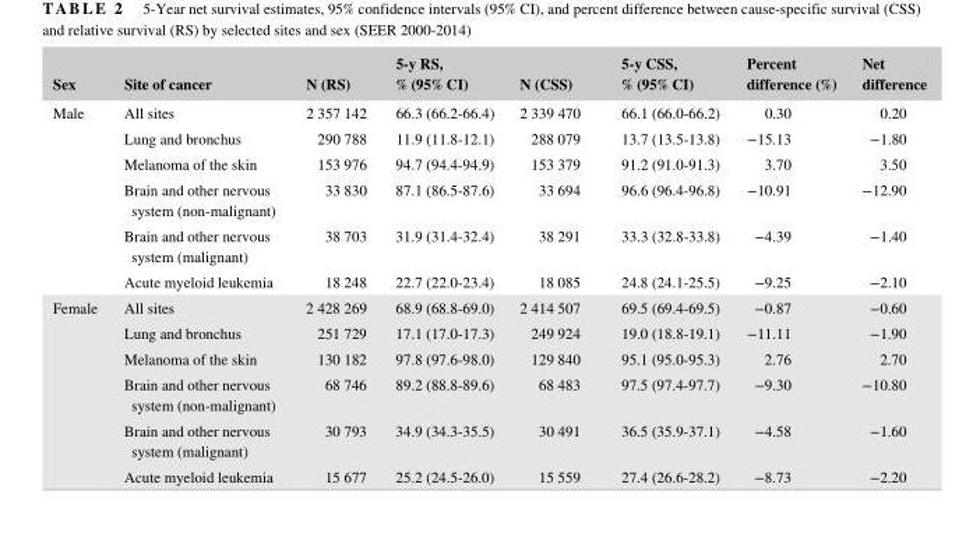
<table><thead><tr><td>Sex</td><td>Site of cancer</td><td>N (RS)</td><td>5- y RS, % (95% CI)</td><td>N (CSS)</td><td>5- y CSS, % (95% CI)</td><td>Percent difference (%)</td><td>Net difference</td></tr></thead><tbody><tr><td rowspan="6">Male</td><td>All sites</td><td>2 357 142</td><td>66.3 (66.2- 66.4)</td><td>2 339 470</td><td>66.1 (66.0- 66.2)</td><td>0.30</td><td>0.20</td></tr><tr><td>Lung and bronchus</td><td>290 788</td><td>11.9 (11.8- 12.1)</td><td>288 079</td><td>13.7 (13.5- 13.8)</td><td>−15.13</td><td>−1.80</td></tr><tr><td>Melanoma of the skin</td><td>153 976</td><td>94.7 (94.4- 94.9)</td><td>153 379</td><td>91.2 (91.0- 91.3)</td><td>3.70</td><td>3.50</td></tr><tr><td>Brain and other nervous system (non-malignant)</td><td>33 830</td><td>87.1 (86.5- 87.6)</td><td>33 694</td><td>96.6 (96.4- 96.8)</td><td>−10.91</td><td>−12.90</td></tr><tr><td>Brain and other nervous system (malignant)</td><td>38 703</td><td>31.9 (31.4- 32.4)</td><td>38 291</td><td>33.3 (32.8- 33.8)</td><td>−4.39</td><td>−1.40</td></tr><tr><td>Acute myeloid leukemia</td><td>18 248</td><td>22.7 (22.0- 23.4)</td><td>18 085</td><td>24.8 (24.1- 25.5)</td><td>−9.25</td><td>−2.10</td></tr><tr><td rowspan="6">Female</td><td>All sites</td><td>2 428 269</td><td>68.9 (68.8- 69.0)</td><td>2 414 507</td><td>69.5 (69.4- 69.5)</td><td>−0.87</td><td>−0.60</td></tr><tr><td>Lung and bronchus</td><td>251 729</td><td>17.1 (17.0- 17.3)</td><td>249 924</td><td>19.0 (18.8- 19.1)</td><td>−11.11</td><td>−1.90</td></tr><tr><td>Melanoma of the skin</td><td>130 182</td><td>97.8 (97.6- 98.0)</td><td>129 840</td><td>95.1 (95.0- 95.3)</td><td>2.76</td><td>2.70</td></tr><tr><td>Brain and other nervous system (non-malignant)</td><td>68 746</td><td>89.2 (88.8- 89.6)</td><td>68 483</td><td>97.5 (97.4- 97.7)</td><td>−9.30</td><td>−10.80</td></tr><tr><td>Brain and other nervous system (malignant)</td><td>30 793</td><td>34.9 (34.3- 35.5)</td><td>30 491</td><td>36.5 (35.9- 37.1)</td><td>−4.58</td><td>−1.60</td></tr><tr><td>Acute myeloid leukemia</td><td>15 677</td><td>25.2 (24.5- 26.0)</td><td>15 559</td><td>27.4 (26.6- 28.2)</td><td>−8.73</td><td>−2.20</td></tr></tbody></table>